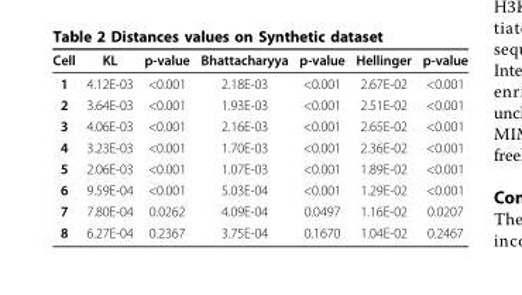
<table><thead><tr><td>Cell</td><td>KL</td><td>p-value</td><td>Bhattacharyya</td><td>p-value</td><td>Hellinger</td><td>p-value</td></tr></thead><tbody><tr><td>1</td><td>4.12E-03</td><td>&lt;0.001</td><td>2.18E-03</td><td>&lt;0.001</td><td>2.67E-02</td><td>&lt;0.001</td></tr><tr><td>2</td><td>3.64E-03</td><td>&lt;0.001</td><td>1.93E-03</td><td>&lt;0.001</td><td>2.51E-02</td><td>&lt;0.001</td></tr><tr><td>3</td><td>4.06E-03</td><td>&lt;0.001</td><td>2.16E-03</td><td>&lt;0.001</td><td>2.65E-02</td><td>&lt;0.001</td></tr><tr><td>4</td><td>3.23E-03</td><td>&lt;0.001</td><td>1.70E-03</td><td>&lt;0.001</td><td>2.36E-02</td><td>&lt;0.001</td></tr><tr><td>5</td><td>2.06E-03</td><td>&lt;0.001</td><td>1.07E-03</td><td>&lt;0.001</td><td>1.89E-02</td><td>&lt;0.001</td></tr><tr><td>6</td><td>9.59E-04</td><td>&lt;0.001</td><td>5.03E-04</td><td>&lt;0.001</td><td>1.29E-02</td><td>&lt;0.001</td></tr><tr><td>7</td><td>7.80E-04</td><td>0.0262</td><td>4.09E-04</td><td>0.0497</td><td>1.16E-02</td><td>0.0207</td></tr><tr><td>8</td><td>6.27E-04</td><td>0.2367</td><td>3.75E-04</td><td>0.1670</td><td>1.04E-02</td><td>0.2467</td></tr></tbody></table>